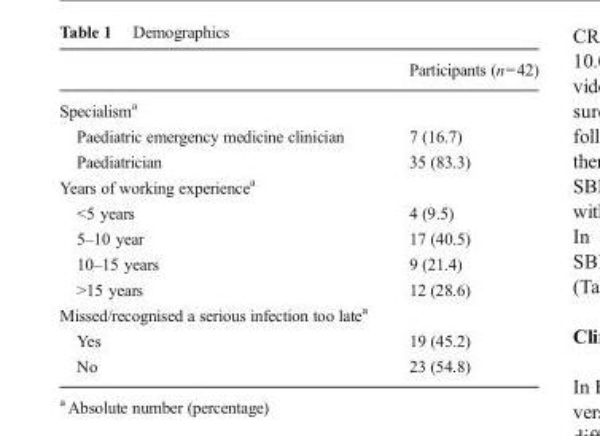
<table><thead><tr><td></td><td>Participants (n=42)</td></tr></thead><tbody><tr><td colspan="2">Specialism<sup>a</sup></td></tr><tr><td>Paediatric emergency medicine clinician</td><td>7 (16.7)</td></tr><tr><td>Paediatrician</td><td>35 (83.3)</td></tr><tr><td colspan="2">Years of working experience<sup>a</sup></td></tr><tr><td>&lt;5 years</td><td>4 (9.5)</td></tr><tr><td>5–10 year</td><td>17 (40.5)</td></tr><tr><td>10–15 years</td><td>9 (21.4)</td></tr><tr><td>&gt;15 years</td><td>12 (28.6)</td></tr><tr><td colspan="2">Missed/recognised a serious infection too late<sup>a</sup></td></tr><tr><td>Yes</td><td>19 (45.2)</td></tr><tr><td>No</td><td>23 (54.8)</td></tr></tbody></table>